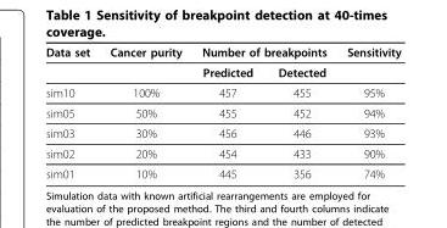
<table><thead><tr><td rowspan="2">Data set</td><td rowspan="2">Cancer purity</td><td colspan="2">Number of breakpoints</td><td rowspan="2">Sensitivity</td></tr><tr><td>Predicted</td><td>Detected</td></tr></thead><tbody><tr><td>sim10</td><td>100%</td><td>457</td><td>455</td><td>95%</td></tr><tr><td>sim05</td><td>50%</td><td>455</td><td>452</td><td>94%</td></tr><tr><td>sim03</td><td>30%</td><td>456</td><td>446</td><td>93%</td></tr><tr><td>sim02</td><td>20%</td><td>454</td><td>433</td><td>90%</td></tr><tr><td>sim01</td><td>10%</td><td>445</td><td>356</td><td>74%</td></tr></tbody></table>